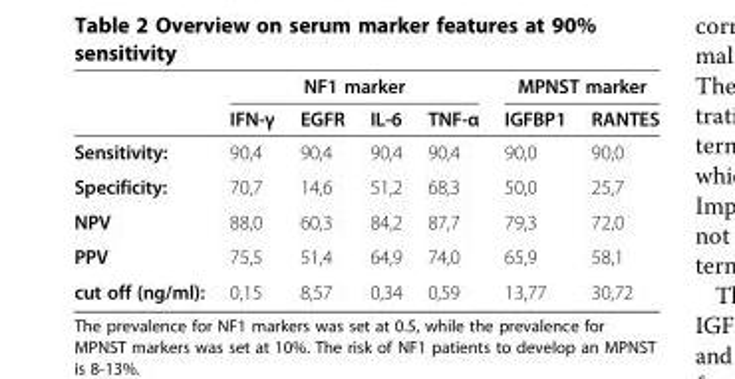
<table><thead><tr><td rowspan="2"></td><td colspan="4">NF1 marker</td><td colspan="2">MPNST marker</td></tr><tr><td>IFN-γ</td><td>EGFR</td><td>IL-6</td><td>TNF-α</td><td>IGFBP1</td><td>RANTES</td></tr></thead><tbody><tr><td>Sensitivity:</td><td>90,4</td><td>90,4</td><td>90,4</td><td>90,4</td><td>90,0</td><td>90,0</td></tr><tr><td>Specificity:</td><td>70,7</td><td>14,6</td><td>51,2</td><td>68,3</td><td>50,0</td><td>25,7</td></tr><tr><td>NPV</td><td>88,0</td><td>60,3</td><td>84,2</td><td>87,7</td><td>79,3</td><td>72,0</td></tr><tr><td>PPV</td><td>75,5</td><td>51,4</td><td>64,9</td><td>74,0</td><td>65,9</td><td>58,1</td></tr><tr><td>cut off (ng/ml):</td><td>0,15</td><td>8,57</td><td>0,34</td><td>0,59</td><td>13,77</td><td>30,72</td></tr></tbody></table>